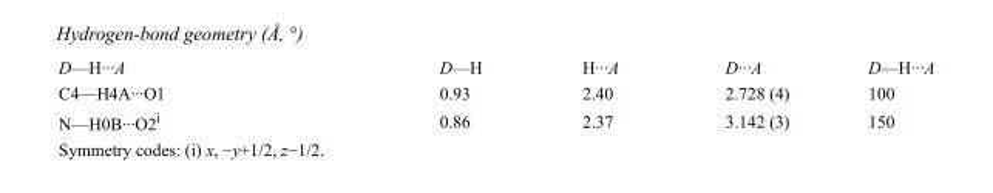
<table><tbody><tr><td>D—H···A</td><td>D—H</td><td>H···A</td><td>D···A</td><td>D—H···A</td></tr><tr><td>C4—H4A···O1</td><td>0.93</td><td>2.40</td><td>2.728 (4)</td><td>100</td></tr><tr><td>N—H0B···O2<sup>i</sup></td><td>0.86</td><td>2.37</td><td>3.142 (3)</td><td>150</td></tr></tbody></table>